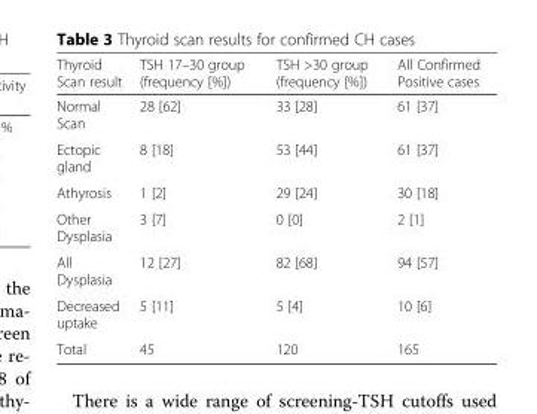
<table><thead><tr><td>Thyroid Scan result</td><td>TSH 17–30 group (frequency [%])</td><td>TSH &gt;30 group (frequency [%])</td><td>All Confirmed Positive cases</td></tr></thead><tbody><tr><td>Normal Scan</td><td>28 [62]</td><td>33 [28]</td><td>61 [37]</td></tr><tr><td>Ectopic gland</td><td>8 [18]</td><td>53 [44]</td><td>61 [37]</td></tr><tr><td>Athyrosis</td><td>1 [2]</td><td>29 [24]</td><td>30 [18]</td></tr><tr><td>Other Dysplasia</td><td>3 [7]</td><td>0 [0]</td><td>2 [1]</td></tr><tr><td>All Dysplasia</td><td>12 [27]</td><td>82 [68]</td><td>94 [57]</td></tr><tr><td>Decreased uptake</td><td>5 [11]</td><td>5 [4]</td><td>10 [6]</td></tr><tr><td>Total</td><td>45</td><td>120</td><td>165</td></tr></tbody></table>